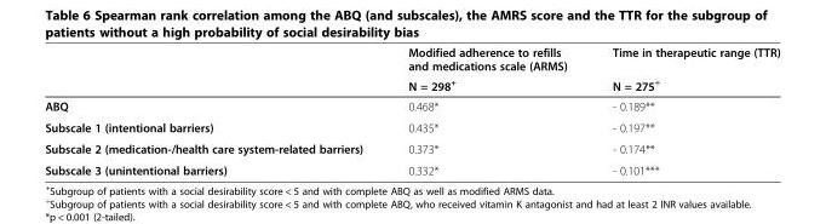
<table><thead><tr><td rowspan="2"></td><td rowspan="2">Modified adherence to refills and medications scale (ARMS) N = 298<sup>+</sup></td><td rowspan="2">Time in therapeutic range (TTR) N = 275<sup>÷</sup></td></tr><tr></tr></thead><tbody><tr><td>ABQ</td><td>0.468*</td><td>- 0.189**</td></tr><tr><td>Subscale 1 (intentional barriers)</td><td>0.435*</td><td>- 0.197**</td></tr><tr><td>Subscale 2 (medication-/health care system-related barriers)</td><td>0.373*</td><td>- 0.174**</td></tr><tr><td>Subscale 3 (unintentional barriers)</td><td>0.332*</td><td>- 0.101***</td></tr></tbody></table>